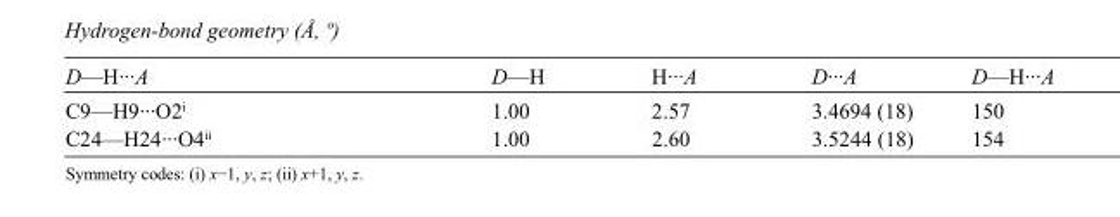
<table><tbody><tr><td>D—H···A</td><td>D—H</td><td>H···A</td><td>D···A</td><td>D—H···A</td></tr><tr><td>C9—H9···O2<sup>i</sup></td><td>1.00</td><td>2.57</td><td>3.4694 (18)</td><td>150</td></tr><tr><td>C24—H24···O4<sup>ii</sup></td><td>1.00</td><td>2.60</td><td>3.5244 (18)</td><td>154</td></tr></tbody></table>